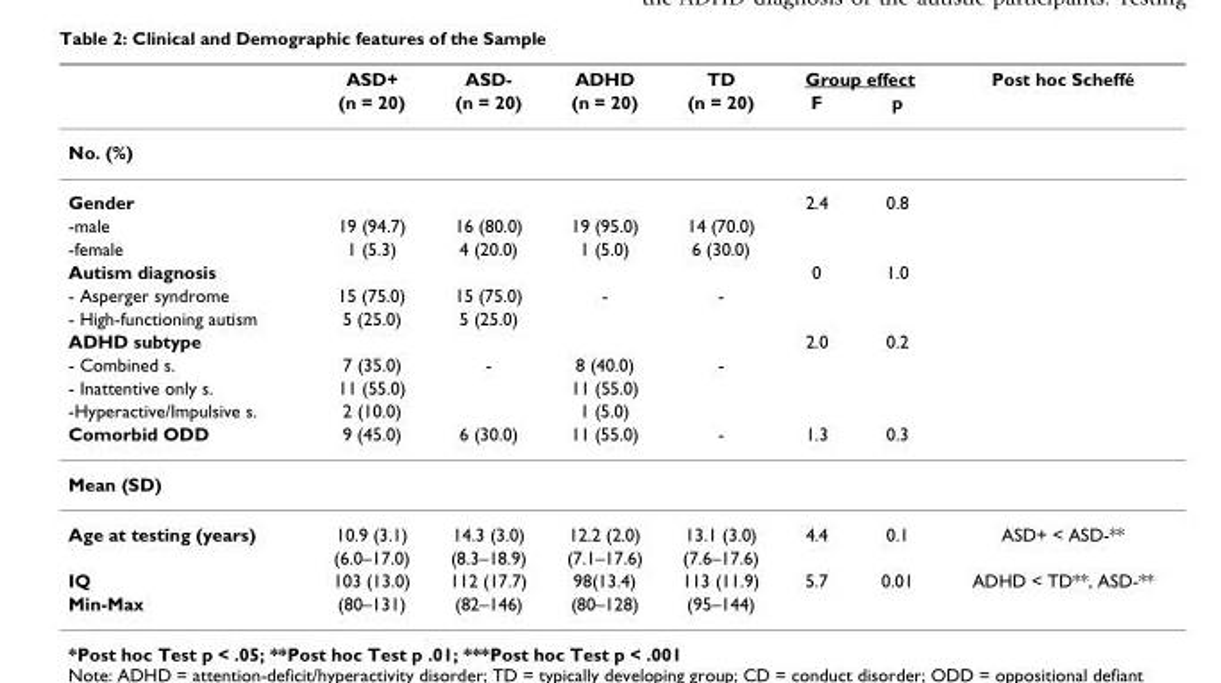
<table><thead><tr><td rowspan="2"></td><td rowspan="2">ASD+ (n = 20)</td><td rowspan="2">ASD- (n = 20)</td><td rowspan="2">ADHD (n = 20)</td><td rowspan="2">TD (n = 20)</td><td colspan="2">Group effect</td><td rowspan="2">Post hoc Scheffé</td></tr><tr><td>F</td><td>p</td></tr></thead><tbody><tr><td colspan="8">No. (%)</td></tr><tr><td>Gender</td><td></td><td></td><td></td><td></td><td>2.4</td><td>0.8</td><td></td></tr><tr><td>-male</td><td>19 (94.7)</td><td>16 (80.0)</td><td>19 (95.0)</td><td>14 (70.0)</td><td></td><td></td><td></td></tr><tr><td>-female</td><td>1 (5.3)</td><td>4 (20.0)</td><td>1 (5.0)</td><td>6 (30.0)</td><td></td><td></td><td></td></tr><tr><td>Autism diagnosis</td><td></td><td></td><td></td><td></td><td>0</td><td>1.0</td><td></td></tr><tr><td>- Asperger syndrome</td><td>15 (75.0)</td><td>15 (75.0)</td><td>-</td><td>-</td><td></td><td></td><td></td></tr><tr><td>- High-functioning autism</td><td>5 (25.0)</td><td>5 (25.0)</td><td></td><td></td><td></td><td></td><td></td></tr><tr><td>ADHD subtype</td><td></td><td></td><td></td><td></td><td>2.0</td><td>0.2</td><td></td></tr><tr><td>- Combined s.</td><td>7 (35.0)</td><td>-</td><td>8 (40.0)</td><td>-</td><td></td><td></td><td></td></tr><tr><td>- Inattentive only s.</td><td>11 (55.0)</td><td></td><td>11 (55.0)</td><td></td><td></td><td></td><td></td></tr><tr><td>-Hyperactive/Impulsive s.</td><td>2 (10.0)</td><td></td><td>1 (5.0)</td><td></td><td></td><td></td><td></td></tr><tr><td>Comorbid ODD</td><td>9 (45.0)</td><td>6 (30.0)</td><td>11 (55.0)</td><td>-</td><td>1.3</td><td>0.3</td><td></td></tr><tr><td colspan="8">Mean (SD)</td></tr><tr><td rowspan="2">Age at testing (years)</td><td>10.9 (3.1)</td><td>14.3 (3.0)</td><td>12.2 (2.0)</td><td>13.1 (3.0)</td><td>4.4</td><td>0.1</td><td>ASD+ &lt; ASD-**</td></tr><tr><td>(6.0–17.0)</td><td>(8.3–18.9)</td><td>(7.1–17.6)</td><td>(7.6–17.6)</td><td></td><td></td><td></td></tr><tr><td>IQ</td><td>103 (13.0)</td><td>112 (17.7)</td><td>98(13.4)</td><td>113 (11.9)</td><td>5.7</td><td>0.01</td><td>ADHD &lt; TD**, ASD-**</td></tr><tr><td>Min-Max</td><td>(80–131)</td><td>(82–146)</td><td>(80–128)</td><td>(95–144)</td><td></td><td></td><td></td></tr></tbody></table>